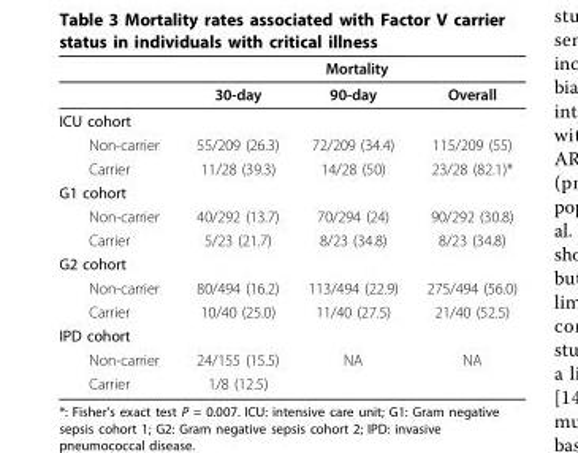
<table><thead><tr><td rowspan="2"></td><td colspan="3">Mortality</td></tr><tr><td>30-day</td><td>90-day</td><td>Overall</td></tr></thead><tbody><tr><td colspan="4">ICU cohort</td></tr><tr><td>Non-carrier</td><td>55/209 (26.3)</td><td>72/209 (34.4)</td><td>115/209 (55)</td></tr><tr><td>Carrier</td><td>11/28 (39.3)</td><td>14/28 (50)</td><td>23/28 (82.1)*</td></tr><tr><td colspan="4">G1 cohort</td></tr><tr><td>Non-carrier</td><td>40/292 (13.7)</td><td>70/294 (24)</td><td>90/292 (30.8)</td></tr><tr><td>Carrier</td><td>5/23 (21.7)</td><td>8/23 (34.8)</td><td>8/23 (34.8)</td></tr><tr><td colspan="4">G2 cohort</td></tr><tr><td>Non-carrier</td><td>80/494 (16.2)</td><td>113/494 (22.9)</td><td>275/494 (56.0)</td></tr><tr><td>Carrier</td><td>10/40 (25.0)</td><td>11/40 (27.5)</td><td>21/40 (52.5)</td></tr><tr><td colspan="4">IPD cohort</td></tr><tr><td>Non-carrier</td><td>24/155 (15.5)</td><td>NA</td><td>NA</td></tr><tr><td>Carrier</td><td>1/8 (12.5)</td><td></td><td></td></tr></tbody></table>